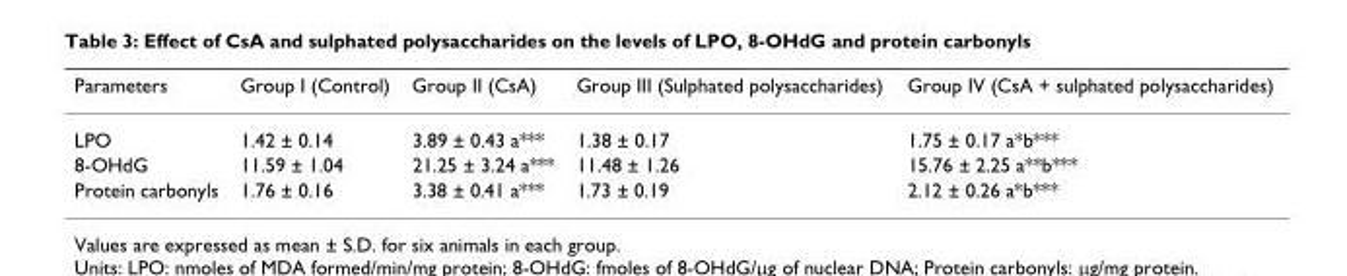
<table><thead><tr><td>Parameters</td><td>Group I (Control)</td><td>Group II (CsA)</td><td>Group III (Sulphated polysaccharides)</td><td>Group IV (CsA + sulphated polysaccharides)</td></tr></thead><tbody><tr><td>LPO</td><td>1.42 ± 0.14</td><td>3.89 ± 0.43 a***</td><td>1.38 ± 0.17</td><td>1.75 ± 0.17 a*b***</td></tr><tr><td>8-OHdG</td><td>11.59 ± 1.04</td><td>21.25 ± 3.24 a***</td><td>11.48 ± 1.26</td><td>15.76 ± 2.25 a**b***</td></tr><tr><td>Protein carbonyls</td><td>1.76 ± 0.16</td><td>3.38 ± 0.41 a***</td><td>1.73 ± 0.19</td><td>2.12 ± 0.26 a*b***</td></tr></tbody></table>